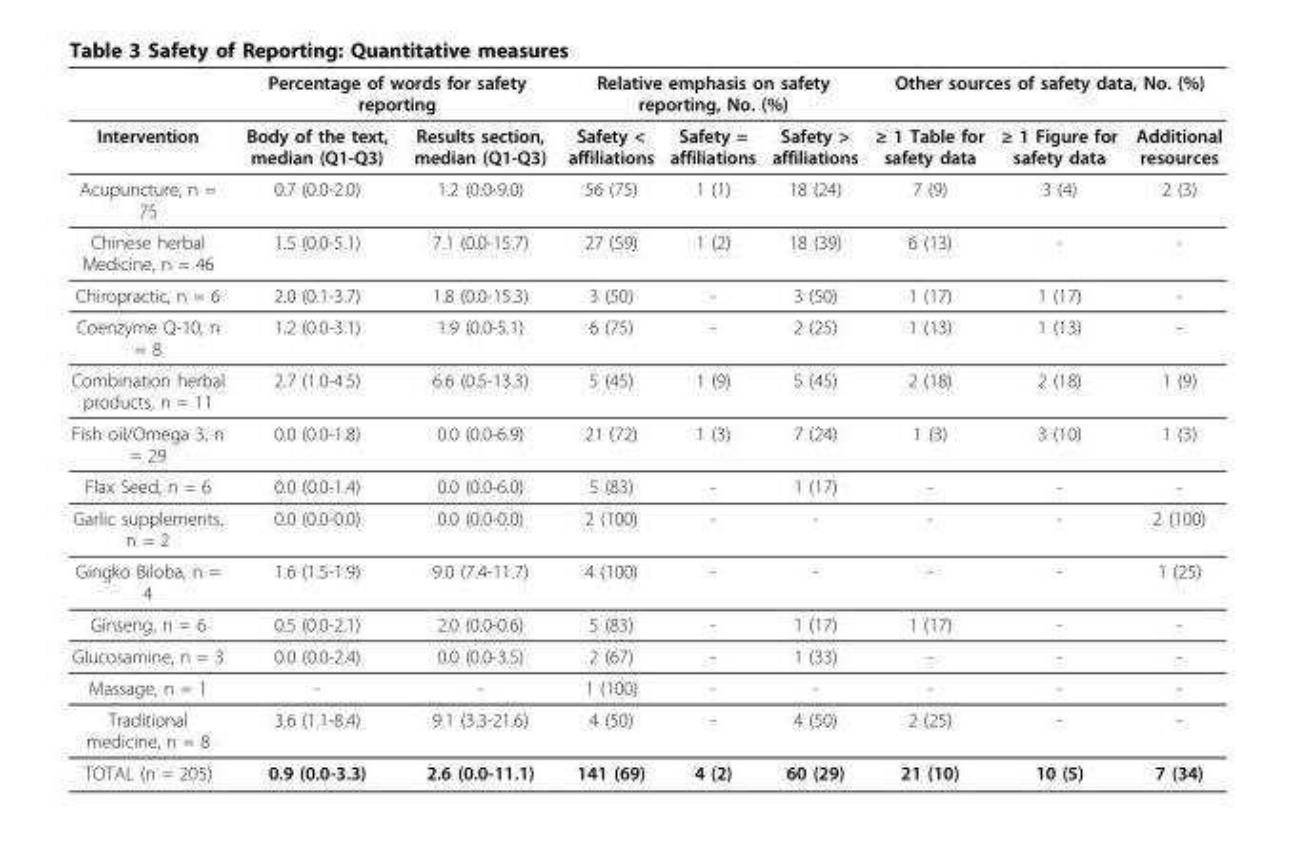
<table><thead><tr><td rowspan="2">Intervention</td><td colspan="2">Percentage of words for safety reporting</td><td colspan="3">Relative emphasis on safety reporting, No. (%)</td><td colspan="3">Other sources of safety data, No. (%)</td></tr><tr><td>Body of the text, median (Q1-Q3)</td><td>Results section, median (Q1-Q3)</td><td>Safety &lt; affiliations</td><td>Safety = affiliations</td><td>Safety &gt; affiliations</td><td>≥ 1 Table for safety data</td><td>≥ 1 Figure for safety data</td><td>Additional resources</td></tr></thead><tbody><tr><td>Acupuncture, n = 75</td><td>0.7 (0.0-2.0)</td><td>1.2 (0.0-9.0)</td><td>56 (75)</td><td>1 (1)</td><td>18 (24)</td><td>7 (9)</td><td>3 (4)</td><td>2 (3)</td></tr><tr><td>Chinese herbal Medicine, n = 46</td><td>1.5 (0.0-5.1)</td><td>7.1 (0.0-15.7)</td><td>27 (59)</td><td>1 (2)</td><td>18 (39)</td><td>6 (13)</td><td>-</td><td>-</td></tr><tr><td>Chiropractic, n = 6</td><td>2.0 (0.1-3.7)</td><td>1.8 (0.0-15.3)</td><td>3 (50)</td><td>-</td><td>3 (50)</td><td>1 (17)</td><td>1 (17)</td><td>-</td></tr><tr><td>Coenzyme Q-10, n = 8</td><td>1.2 (0.0-3.1)</td><td>1.9 (0.0-5.1)</td><td>6 (75)</td><td>-</td><td>2 (25)</td><td>1 (13)</td><td>1 (13)</td><td>-</td></tr><tr><td>Combination herbal products, n = 11</td><td>2.7 (1.0-4.5)</td><td>6.6 (0.5-13.3)</td><td>5 (45)</td><td>1 (9)</td><td>5 (45)</td><td>2 (18)</td><td>2 (18)</td><td>1 (9)</td></tr><tr><td>Fish oil/Omega 3, n = 29</td><td>0.0 (0.0-1.8)</td><td>0.0 (0.0-6.9)</td><td>21 (72)</td><td>1 (3)</td><td>7 (24)</td><td>1 (3)</td><td>3 (10)</td><td>1 (3)</td></tr><tr><td>Flax Seed, n = 6</td><td>0.0 (0.0-1.4)</td><td>0.0 (0.0-6.0)</td><td>5 (83)</td><td>-</td><td>1 (17)</td><td>-</td><td>-</td><td>-</td></tr><tr><td>Garlic supplements, n = 2</td><td>0.0 (0.0-0.0)</td><td>0.0 (0.0-0.0)</td><td>2 (100)</td><td>-</td><td>-</td><td>-</td><td>-</td><td>2 (100)</td></tr><tr><td>Gingko Biloba, n = 4</td><td>1.6 (1.5-1.9)</td><td>9.0 (7.4-11.7)</td><td>4 (100)</td><td>-</td><td>-</td><td>-</td><td>-</td><td>1 (25)</td></tr><tr><td>Ginseng, n = 6</td><td>0.5 (0.0-2.1)</td><td>2.0 (0.0-0.6)</td><td>5 (83)</td><td>-</td><td>1 (17)</td><td>1 (17)</td><td>-</td><td>-</td></tr><tr><td>Glucosamine, n = 3</td><td>0.0 (0.0-2.4)</td><td>0.0 (0.0-3.5)</td><td>2 (67)</td><td>-</td><td>1 (33)</td><td>-</td><td>-</td><td>-</td></tr><tr><td>Massage, n = 1</td><td>-</td><td>-</td><td>1 (100)</td><td>-</td><td>-</td><td>-</td><td>-</td><td>-</td></tr><tr><td>Traditional medicine, n = 8</td><td>3.6 (1.1-8.4)</td><td>9.1 (3.3-21.6)</td><td>4 (50)</td><td>-</td><td>4 (50)</td><td>2 (25)</td><td>-</td><td>-</td></tr><tr><td>TOTAL (n = 205)</td><td>0.9 (0.0-3.3)</td><td>2.6 (0.0-11.1)</td><td>141 (69)</td><td>4 (2)</td><td>60 (29)</td><td>21 (10)</td><td>10 (5)</td><td>7 (34)</td></tr></tbody></table>